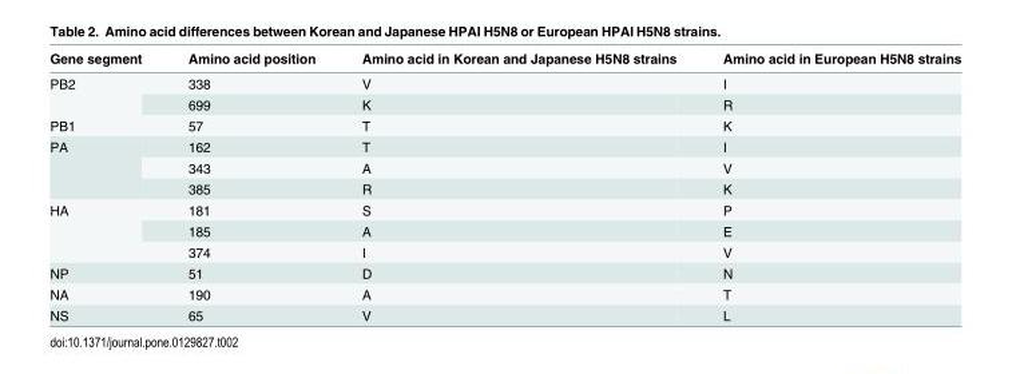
<table><thead><tr><td>Gene segment</td><td>Amino acid position</td><td>Amino acid in Korean and Japanese H5N8 strains</td><td>Amino acid in European H5N8 strains</td></tr></thead><tbody><tr><td rowspan="2">PB2</td><td>338</td><td>V</td><td>I</td></tr><tr><td>699</td><td>K</td><td>R</td></tr><tr><td>PB1</td><td>57</td><td>T</td><td>K</td></tr><tr><td rowspan="3">PA</td><td>162</td><td>T</td><td>I</td></tr><tr><td>343</td><td>A</td><td>V</td></tr><tr><td>385</td><td>R</td><td>K</td></tr><tr><td rowspan="3">HA</td><td>181</td><td>S</td><td>P</td></tr><tr><td>185</td><td>A</td><td>E</td></tr><tr><td>374</td><td>I</td><td>V</td></tr><tr><td>NP</td><td>51</td><td>D</td><td>N</td></tr><tr><td>NA</td><td>190</td><td>A</td><td>T</td></tr><tr><td>NS</td><td>65</td><td>V</td><td>L</td></tr></tbody></table>